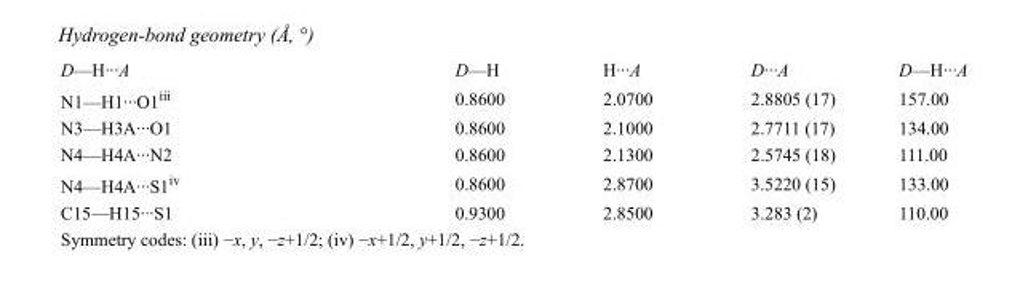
<table><tbody><tr><td>D—H···A</td><td>D—H</td><td>H···A</td><td>D···A</td><td>D—H···A</td></tr><tr><td>N1—H1···O1<sup>iii</sup></td><td>0.8600</td><td>2.0700</td><td>2.8805 (17)</td><td>157.00</td></tr><tr><td>N3—H3A···O1</td><td>0.8600</td><td>2.1000</td><td>2.7711 (17)</td><td>134.00</td></tr><tr><td>N4—H4A···N2</td><td>0.8600</td><td>2.1300</td><td>2.5745 (18)</td><td>111.00</td></tr><tr><td>N4—H4A···S1<sup>iv</sup></td><td>0.8600</td><td>2.8700</td><td>3.5220 (15)</td><td>133.00</td></tr><tr><td>C15—H15···S1</td><td>0.9300</td><td>2.8500</td><td>3.283 (2)</td><td>110.00</td></tr></tbody></table>